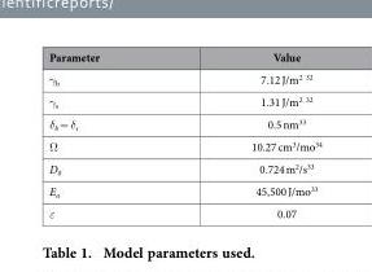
<table><thead><tr><td>Parameter</td><td>Value</td></tr></thead><tbody><tr><td>γ <sub>b</sub></td><td>7.12 J/m<sup>2</sup> 32</td></tr><tr><td>γ <sub>s</sub></td><td>1.31 J/m<sup>2</sup> 32</td></tr><tr><td>δ<sub>b</sub> = δ<sub>s</sub></td><td>0.5 nm<sup>33</sup></td></tr><tr><td>Ω</td><td>10.27 cm<sup>3</sup>/mo<sup>34</sup></td></tr><tr><td>D<sub>0</sub></td><td>0.724 m<sup>2</sup>/s<sup>33</sup></td></tr><tr><td>E<sub>a</sub></td><td>45,500 J/mo<sup>33</sup></td></tr><tr><td>ε</td><td>0.07</td></tr></tbody></table>